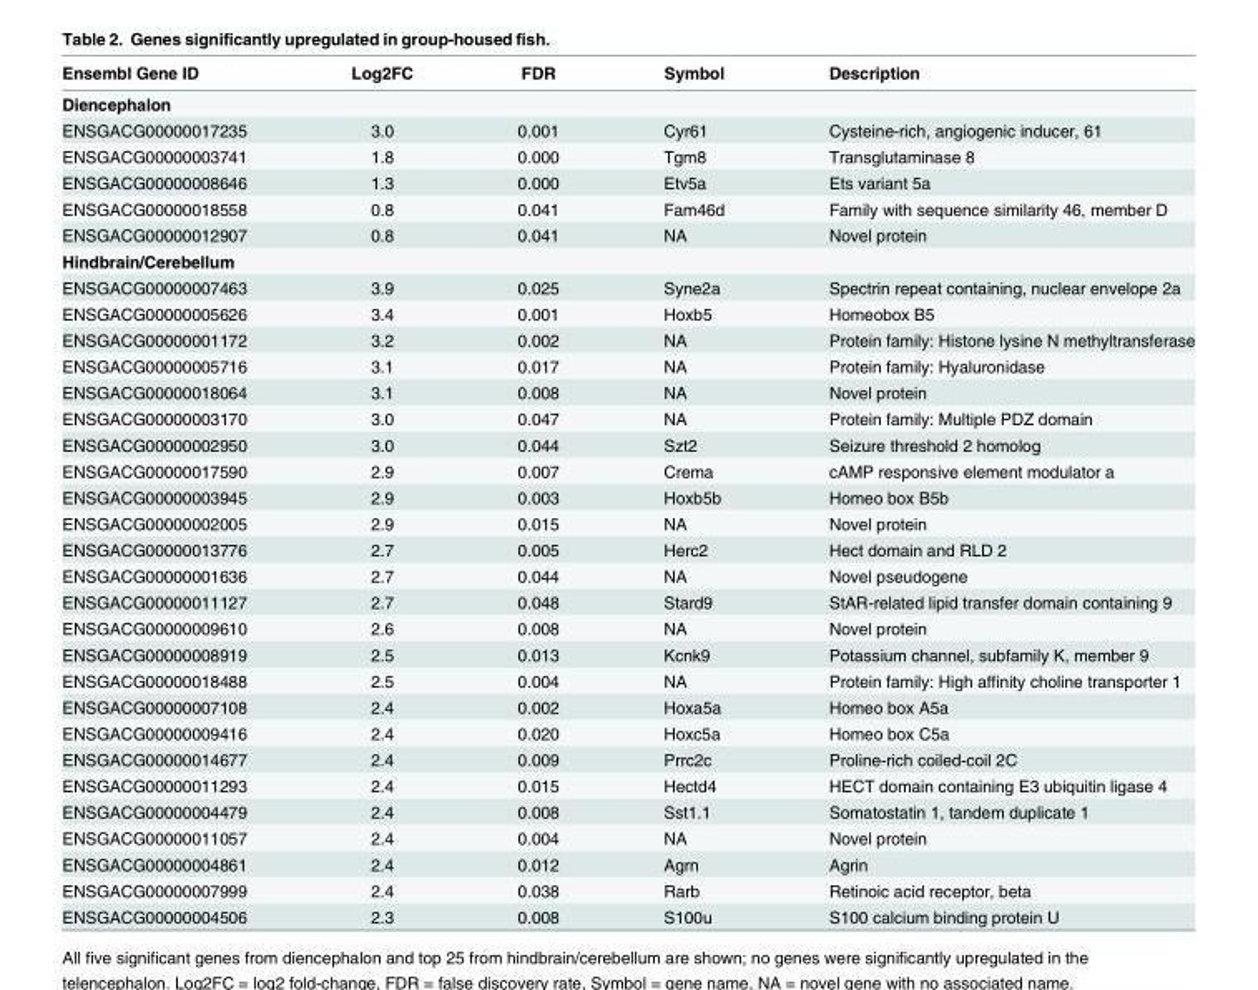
<table><thead><tr><td>Ensembl Gene ID</td><td>Log2FC</td><td>FDR</td><td>Symbol</td><td>Description</td></tr></thead><tbody><tr><td colspan="5">Diencephalon</td></tr><tr><td>ENSGACG00000017235</td><td>3.0</td><td>0.001</td><td>Cyr61</td><td>Cysteine-rich, angiogenic inducer, 61</td></tr><tr><td>ENSGACG00000003741</td><td>1.8</td><td>0.000</td><td>Tgm8</td><td>Transglutaminase 8</td></tr><tr><td>ENSGACG00000008646</td><td>1.3</td><td>0.000</td><td>Etv5a</td><td>Ets variant 5a</td></tr><tr><td>ENSGACG00000018558</td><td>0.8</td><td>0.041</td><td>Fam46d</td><td>Family with sequence similarity 46, member D</td></tr><tr><td>ENSGACG00000012907</td><td>0.8</td><td>0.041</td><td>NA</td><td>Novel protein</td></tr><tr><td colspan="5">Hindbrain/Cerebellum</td></tr><tr><td>ENSGACG00000007463</td><td>3.9</td><td>0.025</td><td>Syne2a</td><td>Spectrin repeat containing, nuclear envelope 2a</td></tr><tr><td>ENSGACG00000005626</td><td>3.4</td><td>0.001</td><td>Hoxb5</td><td>Homeobox B5</td></tr><tr><td>ENSGACG00000001172</td><td>3.2</td><td>0.002</td><td>NA</td><td>Protein family: Histone lysine N methyltransferase</td></tr><tr><td>ENSGACG00000005716</td><td>3.1</td><td>0.017</td><td>NA</td><td>Protein family: Hyaluronidase</td></tr><tr><td>ENSGACG00000018064</td><td>3.1</td><td>0.008</td><td>NA</td><td>Novel protein</td></tr><tr><td>ENSGACG00000003170</td><td>3.0</td><td>0.047</td><td>NA</td><td>Protein family: Multiple PDZ domain</td></tr><tr><td>ENSGACG00000002950</td><td>3.0</td><td>0.044</td><td>Szt2</td><td>Seizure threshold 2 homolog</td></tr><tr><td>ENSGACG00000017590</td><td>2.9</td><td>0.007</td><td>Crema</td><td>cAMP responsive element modulator a</td></tr><tr><td>ENSGACG00000003945</td><td>2.9</td><td>0.003</td><td>Hoxb5b</td><td>Homeo box B5b</td></tr><tr><td>ENSGACG00000002005</td><td>2.9</td><td>0.015</td><td>NA</td><td>Novel protein</td></tr><tr><td>ENSGACG00000013776</td><td>2.7</td><td>0.005</td><td>Herc2</td><td>Hect domain and RLD 2</td></tr><tr><td>ENSGACG00000001636</td><td>2.7</td><td>0.044</td><td>NA</td><td>Novel pseudogene</td></tr><tr><td>ENSGACG00000011127</td><td>2.7</td><td>0.048</td><td>Stard9</td><td>StAR-related lipid transfer domain containing 9</td></tr><tr><td>ENSGACG00000009610</td><td>2.6</td><td>0.008</td><td>NA</td><td>Novel protein</td></tr><tr><td>ENSGACG00000008919</td><td>2.5</td><td>0.013</td><td>Kcnk9</td><td>Potassium channel, subfamily K, member 9</td></tr><tr><td>ENSGACG00000018488</td><td>2.5</td><td>0.004</td><td>NA</td><td>Protein family: High affinity choline transporter 1</td></tr><tr><td>ENSGACG00000007108</td><td>2.4</td><td>0.002</td><td>Hoxa5a</td><td>Homeo box A5a</td></tr><tr><td>ENSGACG00000009416</td><td>2.4</td><td>0.020</td><td>Hoxc5a</td><td>Homeo box C5a</td></tr><tr><td>ENSGACG00000014677</td><td>2.4</td><td>0.009</td><td>Prrc2c</td><td>Proline-rich coiled-coil 2C</td></tr><tr><td>ENSGACG00000011293</td><td>2.4</td><td>0.015</td><td>Hectd4</td><td>HECT domain containing E3 ubiquitin ligase 4</td></tr><tr><td>ENSGACG00000004479</td><td>2.4</td><td>0.008</td><td>Sst1.1</td><td>Somatostatin 1, tandem duplicate 1</td></tr><tr><td>ENSGACG00000011057</td><td>2.4</td><td>0.004</td><td>NA</td><td>Novel protein</td></tr><tr><td>ENSGACG00000004861</td><td>2.4</td><td>0.012</td><td>Agrn</td><td>Agrin</td></tr><tr><td>ENSGACG00000007999</td><td>2.4</td><td>0.038</td><td>Rarb</td><td>Retinoic acid receptor, beta</td></tr><tr><td>ENSGACG00000004506</td><td>2.3</td><td>0.008</td><td>S100u</td><td>S100 calcium binding protein U</td></tr></tbody></table>